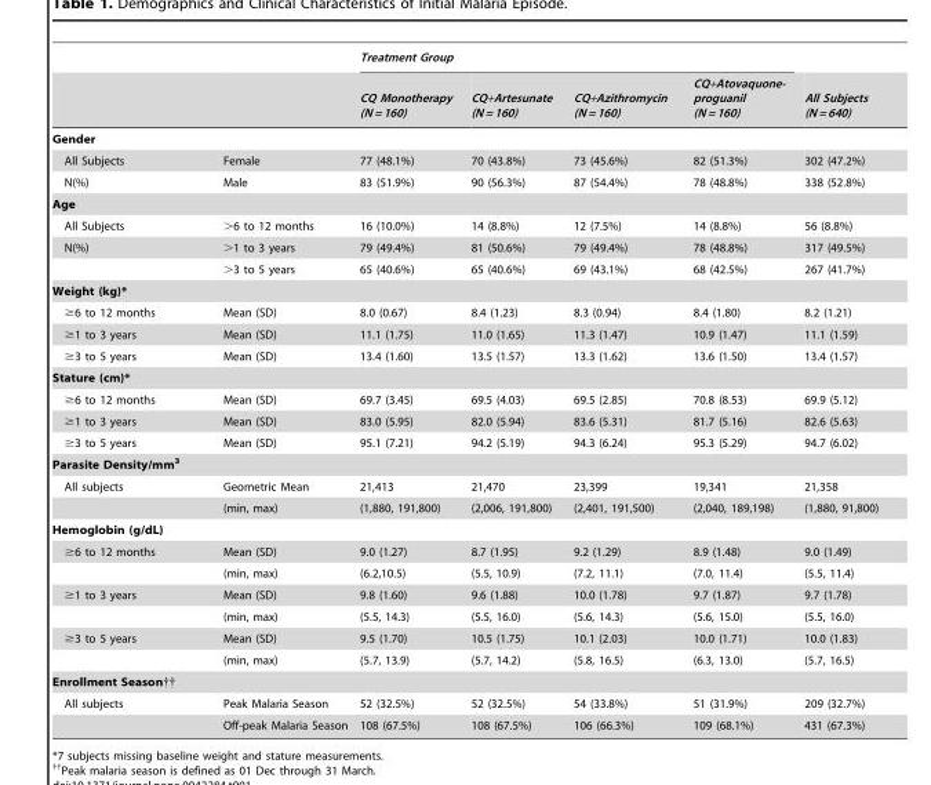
<table><thead><tr><td rowspan="2"></td><td rowspan="2"></td><td colspan="4">Treatment Group</td><td rowspan="2">All Subjects (N = 640)</td></tr><tr><td>CQ Monotherapy (N = 160)</td><td>CQ+Artesunate (N = 160)</td><td>CQ+Azithromycin (N = 160)</td><td>CQ+Atovaquone- proguanil (N = 160)</td></tr></thead><tbody><tr><td colspan="7">Gender</td></tr><tr><td>All Subjects</td><td>Female</td><td>77 (48.1%)</td><td>70 (43.8%)</td><td>73 (45.6%)</td><td>82 (51.3%)</td><td>302 (47.2%)</td></tr><tr><td>N(%)</td><td>Male</td><td>83 (51.9%)</td><td>90 (56.3%)</td><td>87 (54.4%)</td><td>78 (48.8%)</td><td>338 (52.8%)</td></tr><tr><td colspan="7">Age</td></tr><tr><td>All Subjects</td><td>&gt;6 to 12 months</td><td>16 (10.0%)</td><td>14 (8.8%)</td><td>12 (7.5%)</td><td>14 (8.8%)</td><td>56 (8.8%)</td></tr><tr><td rowspan="2">N(%)</td><td>&gt;1 to 3 years</td><td>79 (49.4%)</td><td>81 (50.6%)</td><td>79 (49.4%)</td><td>78 (48.8%)</td><td>317 (49.5%)</td></tr><tr><td>&gt;3 to 5 years</td><td>65 (40.6%)</td><td>65 (40.6%)</td><td>69 (43.1%)</td><td>68 (42.5%)</td><td>267 (41.7%)</td></tr><tr><td colspan="7">Weight (kg)*</td></tr><tr><td>≥6 to 12 months</td><td>Mean (SD)</td><td>8.0 (0.67)</td><td>8.4 (1.23)</td><td>8.3 (0.94)</td><td>8.4 (1.80)</td><td>8.2 (1.21)</td></tr><tr><td>≥1 to 3 years</td><td>Mean (SD)</td><td>11.1 (1.75)</td><td>11.0 (1.65)</td><td>11.3 (1.47)</td><td>10.9 (1.47)</td><td>11.1 (1.59)</td></tr><tr><td>≥3 to 5 years</td><td>Mean (SD)</td><td>13.4 (1.60)</td><td>13.5 (1.57)</td><td>13.3 (1.62)</td><td>13.6 (1.50)</td><td>13.4 (1.57)</td></tr><tr><td colspan="7">Stature (cm)*</td></tr><tr><td>≥6 to 12 months</td><td>Mean (SD)</td><td>69.7 (3.45)</td><td>69.5 (4.03)</td><td>69.5 (2.85)</td><td>70.8 (8.53)</td><td>69.9 (5.12)</td></tr><tr><td>≥1 to 3 years</td><td>Mean (SD)</td><td>83.0 (5.95)</td><td>82.0 (5.94)</td><td>83.6 (5.31)</td><td>81.7 (5.16)</td><td>82.6 (5.63)</td></tr><tr><td>≥3 to 5 years</td><td>Mean (SD)</td><td>95.1 (7.21)</td><td>94.2 (5.19)</td><td>94.3 (6.24)</td><td>95.3 (5.29)</td><td>94.7 (6.02)</td></tr><tr><td colspan="7">Parasite Density/mm<sup>3</sup></td></tr><tr><td rowspan="2">All subjects</td><td>Geometric Mean</td><td>21,413</td><td>21,470</td><td>23,399</td><td>19,341</td><td>21,358</td></tr><tr><td>(min, max)</td><td>(1,880, 191,800)</td><td>(2,006, 191,800)</td><td>(2,401, 191,500)</td><td>(2,040, 189,198)</td><td>(1,880, 91,800)</td></tr><tr><td colspan="7">Hemoglobin (g/dL)</td></tr><tr><td rowspan="2">≥6 to 12 months</td><td>Mean (SD)</td><td>9.0 (1.27)</td><td>8.7 (1.95)</td><td>9.2 (1.29)</td><td>8.9 (1.48)</td><td>9.0 (1.49)</td></tr><tr><td>(min, max)</td><td>(6.2,10.5)</td><td>(5.5, 10.9)</td><td>(7.2, 11.1)</td><td>(7.0, 11.4)</td><td>(5.5, 11.4)</td></tr><tr><td rowspan="2">≥1 to 3 years</td><td>Mean (SD)</td><td>9.8 (1.60)</td><td>9.6 (1.88)</td><td>10.0 (1.78)</td><td>9.7 (1.87)</td><td>9.7 (1.78)</td></tr><tr><td>(min, max)</td><td>(5.5, 14.3)</td><td>(5.5, 16.0)</td><td>(5.6, 14.3)</td><td>(5.6, 15.0)</td><td>(5.5, 16.0)</td></tr><tr><td rowspan="2">≥3 to 5 years</td><td>Mean (SD)</td><td>9.5 (1.70)</td><td>10.5 (1.75)</td><td>10.1 (2.03)</td><td>10.0 (1.71)</td><td>10.0 (1.83)</td></tr><tr><td>(min, max)</td><td>(5.7, 13.9)</td><td>(5.7, 14.2)</td><td>(5.8, 16.5)</td><td>(6.3, 13.0)</td><td>(5.7, 16.5)</td></tr><tr><td colspan="7">Enrollment Season††</td></tr><tr><td rowspan="2">All subjects</td><td>Peak Malaria Season</td><td>52 (32.5%)</td><td>52 (32.5%)</td><td>54 (33.8%)</td><td>51 (31.9%)</td><td>209 (32.7%)</td></tr><tr><td>Off-peak Malaria Season</td><td>108 (67.5%)</td><td>108 (67.5%)</td><td>106 (66.3%)</td><td>109 (68.1%)</td><td>431 (67.3%)</td></tr></tbody></table>